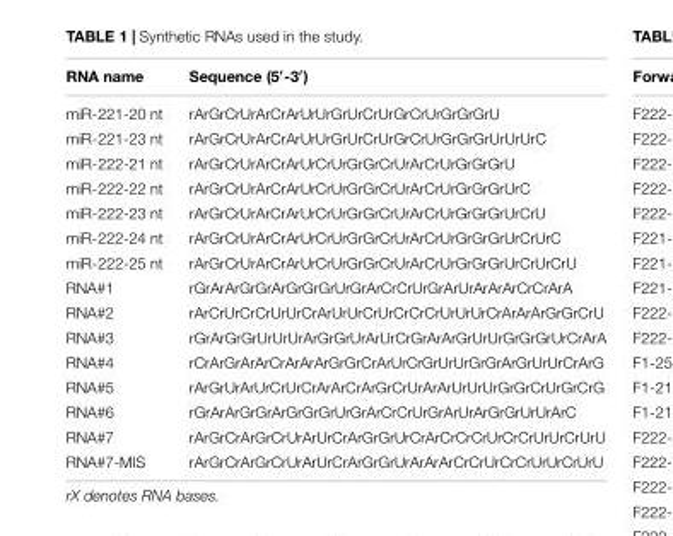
<table><thead><tr><td>RNA name</td><td>Sequence (5′-3′)</td></tr></thead><tbody><tr><td>miR-221-20 nt</td><td>rArGrCrUrArCrArUrUrGrUrCrUrGrCrUrGrGrGrU</td></tr><tr><td>miR-221-23 nt</td><td>rArGrCrUrArCrArUrUrGrUrCrUrGrCrUrGrGrGrUrUrUrC</td></tr><tr><td>miR-222-21 nt</td><td>rArGrCrUrArCrArUrCrUrGrGrCrUrArCrUrGrGrGrU</td></tr><tr><td>miR-222-22 nt</td><td>rArGrCrUrArCrArUrCrUrGrGrCrUrArCrUrGrGrGrUrC</td></tr><tr><td>miR-222-23 nt</td><td>rArGrCrUrArCrArUrCrUrGrGrCrUrArCrUrGrGrGrUrCrU</td></tr><tr><td>miR-222-24 nt</td><td>rArGrCrUrArCrArUrCrUrGrGrCrUrArCrUrGrGrGrUrCrUrC</td></tr><tr><td>miR-222-25 nt</td><td>rArGrCrUrArCrArUrCrUrGrGrCrUrArCrUrGrGrGrUrCrUrCrU</td></tr><tr><td>RNA#1</td><td>rGrArArGrGrArGrGrGrUrGrArCrCrUrGrArUrArArArCrCrArA</td></tr><tr><td>RNA#2</td><td>rArCrUrCrCrUrUrCrArUrUrCrUrCrCrCrUrUrUrCrArArArGrGrCrU</td></tr><tr><td>RNA#3</td><td>rGrArGrGrUrUrUrArGrGrUrArUrCrGrArArGrUrUrGrGrGrUrCrArA</td></tr><tr><td>RNA#4</td><td>rCrArGrArArCrArArArGrGrCrArUrCrGrUrUrGrGrArGrUrUrCrArG</td></tr><tr><td>RNA#5</td><td>rArGrUrArUrCrUrCrArArCrArGrCrUrArArUrUrUrGrGrCrUrGrCrG</td></tr><tr><td>RNA#6</td><td>rGrArArGrGrArGrGrGrUrGrArCrCrUrGrArUrArGrGrUrUrArC</td></tr><tr><td>RNA#7</td><td>rArGrCrArGrCrUrArUrCrArGrGrUrCrArCrCrCrUrCrCrUrUrCrUrU</td></tr><tr><td>RNA#7-MIS</td><td>rArGrCrArGrCrUrArUrCrArGrGrUrArArArCrCrUrCrCrUrUrCrUrU</td></tr></tbody></table>